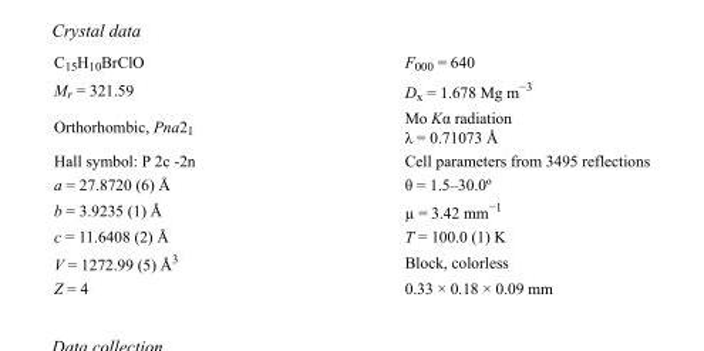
<table><tbody><tr><td>C<sub>15</sub>H<sub>10</sub>BrClO</td><td>F<sub>000</sub> = 640</td></tr><tr><td>M<sub>r</sub> = 321.59</td><td>D<sub>x</sub> = 1.678 Mg m<sup>−3</sup></td></tr><tr><td>Orthorhombic, Pna2<sub>1</sub></td><td>Mo Kα radiation λ = 0.71073 Å</td></tr><tr><td>Hall symbol: P 2c -2n</td><td>Cell parameters from 3495 reflections</td></tr><tr><td>a = 27.8720 (6) Å</td><td>θ = 1.5–30.0º</td></tr><tr><td>b = 3.9235 (1) Å</td><td>µ = 3.42 mm<sup>−1</sup></td></tr><tr><td>c = 11.6408 (2) Å</td><td>T = 100.0 (1) K</td></tr><tr><td>V = 1272.99 (5) Å<sup>3</sup></td><td>Block, colorless</td></tr><tr><td>Z = 4</td><td>0.33 × 0.18 × 0.09 mm</td></tr></tbody></table>